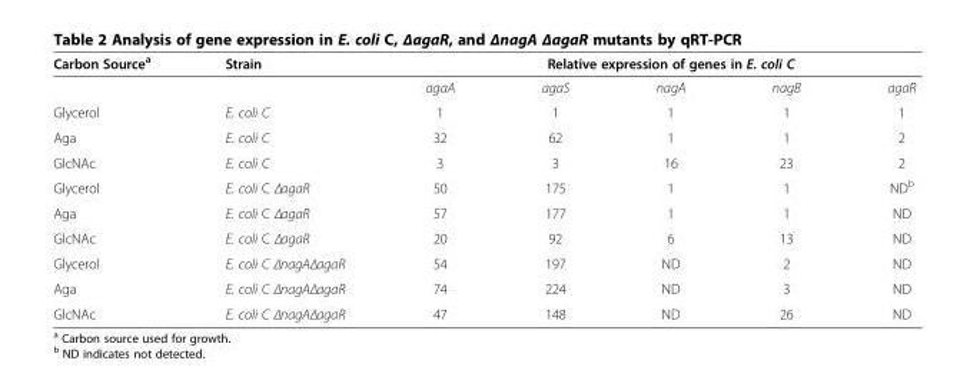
<table><thead><tr><td rowspan="2">Carbon Source<sup>a</sup></td><td rowspan="2">Strain</td><td colspan="5">Relative expression of genes in E. coli C</td></tr><tr><td>agaA</td><td>agaS</td><td>nagA</td><td>nagB</td><td>agaR</td></tr></thead><tbody><tr><td>Glycerol</td><td>E. coli C</td><td>1</td><td>1</td><td>1</td><td>1</td><td>1</td></tr><tr><td>Aga</td><td>E. coli C</td><td>32</td><td>62</td><td>1</td><td>1</td><td>2</td></tr><tr><td>GlcNAc</td><td>E. coli C</td><td>3</td><td>3</td><td>16</td><td>23</td><td>2</td></tr><tr><td>Glycerol</td><td>E. coli C ΔagaR</td><td>50</td><td>175</td><td>1</td><td>1</td><td>ND<sup>b</sup></td></tr><tr><td>Aga</td><td>E. coli C ΔagaR</td><td>57</td><td>177</td><td>1</td><td>1</td><td>ND</td></tr><tr><td>GlcNAc</td><td>E. coli C ΔagaR</td><td>20</td><td>92</td><td>6</td><td>13</td><td>ND</td></tr><tr><td>Glycerol</td><td>E. coli C ΔnagAΔagaR</td><td>54</td><td>197</td><td>ND</td><td>2</td><td>ND</td></tr><tr><td>Aga</td><td>E. coli C ΔnagAΔagaR</td><td>74</td><td>224</td><td>ND</td><td>3</td><td>ND</td></tr><tr><td>GlcNAc</td><td>E. coli C ΔnagAΔagaR</td><td>47</td><td>148</td><td>ND</td><td>26</td><td>ND</td></tr></tbody></table>